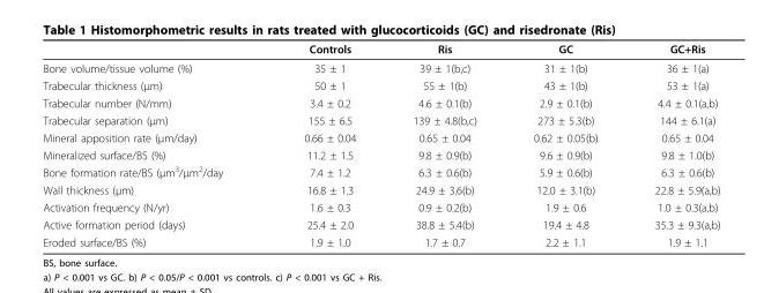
<table><thead><tr><td></td><td>Controls</td><td>Ris</td><td>GC</td><td>GC+Ris</td></tr></thead><tbody><tr><td>Bone volume/tissue volume (%)</td><td>35 ± 1</td><td>39 ± 1(b,c)</td><td>31 ± 1(b)</td><td>36 ± 1(a)</td></tr><tr><td>Trabecular thickness (μm)</td><td>50 ± 1</td><td>55 ± 1(b)</td><td>43 ± 1(b)</td><td>53 ± 1(a)</td></tr><tr><td>Trabecular number (N/mm)</td><td>3.4 ± 0.2</td><td>4.6 ± 0.1(b)</td><td>2.9 ± 0.1(b)</td><td>4.4 ± 0.1(a,b)</td></tr><tr><td>Trabecular separation (μm)</td><td>155 ± 6.5</td><td>139 ± 4.8(b,c)</td><td>273 ± 5.3(b)</td><td>144 ± 6.1(a)</td></tr><tr><td>Mineral apposition rate (μm/day)</td><td>0.66 ± 0.04</td><td>0.65 ± 0.04</td><td>0.62 ± 0.05(b)</td><td>0.65 ± 0.04</td></tr><tr><td>Mineralized surface/BS (%)</td><td>11.2 ± 1.5</td><td>9.8 ± 0.9(b)</td><td>9.6 ± 0.9(b)</td><td>9.8 ± 1.0(b)</td></tr><tr><td>Bone formation rate/BS (μm<sup>3</sup>/μm<sup>2</sup>/day</td><td>7.4 ± 1.2</td><td>6.3 ± 0.6(b)</td><td>5.9 ± 0.6(b)</td><td>6.3 ± 0.6(b)</td></tr><tr><td>Wall thickness (μm)</td><td>16.8 ± 1.3</td><td>24.9 ± 3.6(b)</td><td>12.0 ± 3.1(b)</td><td>22.8 ± 5.9(a,b)</td></tr><tr><td>Activation frequency (N/yr)</td><td>1.6 ± 0.3</td><td>0.9 ± 0.2(b)</td><td>1.9 ± 0.6</td><td>1.0 ± 0.3(a,b)</td></tr><tr><td>Active formation period (days)</td><td>25.4 ± 2.0</td><td>38.8 ± 5.4(b)</td><td>19.4 ± 4.8</td><td>35.3 ± 9.3(a,b)</td></tr><tr><td>Eroded surface/BS (%)</td><td>1.9 ± 1.0</td><td>1.7 ± 0.7</td><td>2.2 ± 1.1</td><td>1.9 ± 1.1</td></tr></tbody></table>